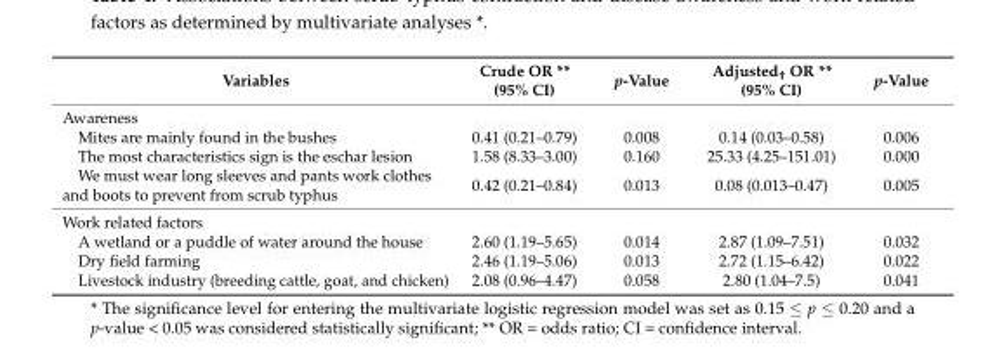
<table><thead><tr><td>Variables</td><td>Crude OR ** (95% CI)</td><td>p-Value</td><td>Adjusted<sub>†</sub> OR ** (95% CI)</td><td>p-Value</td></tr></thead><tbody><tr><td colspan="5">Awareness</td></tr><tr><td>Mites are mainly found in the bushes</td><td>0.41 (0.21–0.79)</td><td>0.008</td><td>0.14 (0.03–0.58)</td><td>0.006</td></tr><tr><td>The most characteristics sign is the eschar lesion</td><td>1.58 (8.33–3.00)</td><td>0.160</td><td>25.33 (4.25–151.01)</td><td>0.000</td></tr><tr><td>We must wear long sleeves and pants work clothes and boots to prevent from scrub typhus</td><td>0.42 (0.21–0.84)</td><td>0.013</td><td>0.08 (0.013–0.47)</td><td>0.005</td></tr><tr><td colspan="5">Work related factors</td></tr><tr><td>A wetland or a puddle of water around the house</td><td>2.60 (1.19–5.65)</td><td>0.014</td><td>2.87 (1.09–7.51)</td><td>0.032</td></tr><tr><td>Dry field farming</td><td>2.46 (1.19–5.06)</td><td>0.013</td><td>2.72 (1.15–6.42)</td><td>0.022</td></tr><tr><td>Livestock industry (breeding cattle, goat, and chicken)</td><td>2.08 (0.96–4.47)</td><td>0.058</td><td>2.80 (1.04–7.5)</td><td>0.041</td></tr></tbody></table>